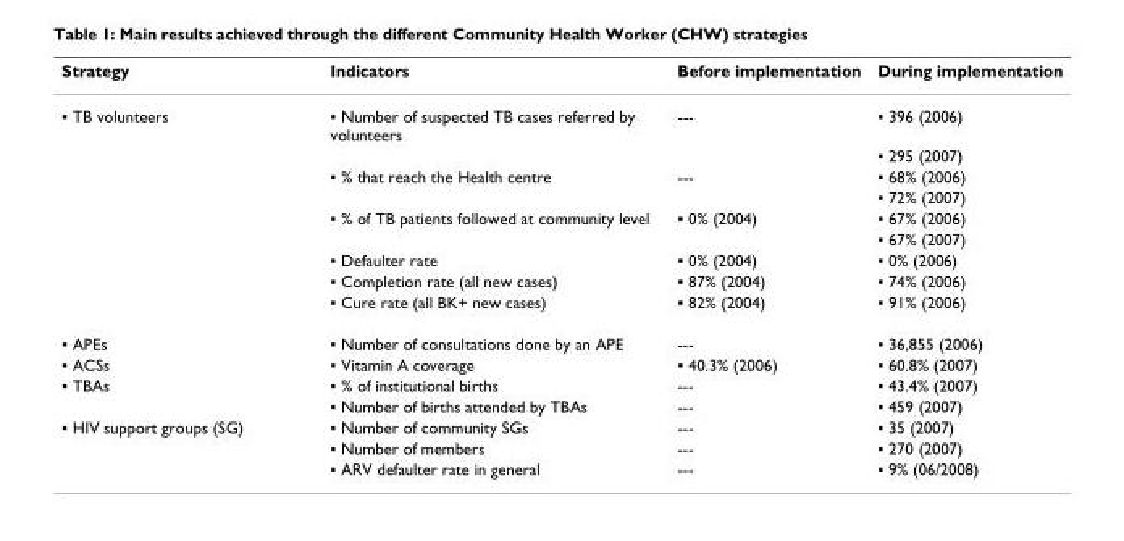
<table><thead><tr><td>Strategy</td><td>Indicators</td><td>Before implementation</td><td>During implementation</td></tr></thead><tbody><tr><td rowspan="9">▪ TB volunteers</td><td>▪ Number of suspected TB cases referred by volunteers</td><td>---</td><td>▪ 396 (2006)</td></tr><tr><td></td><td></td><td>▪ 295 (2007)</td></tr><tr><td>▪ % that reach the Health centre</td><td>---</td><td>▪ 68% (2006)</td></tr><tr><td></td><td></td><td>▪ 72% (2007)</td></tr><tr><td>▪ % of TB patients followed at community level</td><td>▪ 0% (2004)</td><td>▪ 67% (2006)</td></tr><tr><td></td><td></td><td>▪ 67% (2007)</td></tr><tr><td>▪ Defaulter rate</td><td>▪ 0% (2004)</td><td>▪ 0% (2006)</td></tr><tr><td>▪ Completion rate (all new cases)</td><td>▪ 87% (2004)</td><td>▪ 74% (2006)</td></tr><tr><td>▪ Cure rate (all BK+ new cases)</td><td>▪ 82% (2004)</td><td>▪ 91% (2006)</td></tr><tr><td>▪ APEs</td><td>▪ Number of consultations done by an APE</td><td>---</td><td>▪ 36,855 (2006)</td></tr><tr><td>▪ ACSs</td><td>▪ Vitamin A coverage</td><td>▪ 40.3% (2006)</td><td>▪ 60.8% (2007)</td></tr><tr><td rowspan="2">▪ TBAs</td><td>▪ % of institutional births</td><td>---</td><td>▪ 43.4% (2007)</td></tr><tr><td>▪ Number of births attended by TBAs</td><td>---</td><td>▪ 459 (2007)</td></tr><tr><td rowspan="3">▪ HIV support groups (SG)</td><td>▪ Number of community SGs</td><td>---</td><td>▪ 35 (2007)</td></tr><tr><td>▪ Number of members</td><td>---</td><td>▪ 270 (2007)</td></tr><tr><td>▪ ARV defaulter rate in general</td><td>---</td><td>▪ 9% (06/2008)</td></tr></tbody></table>